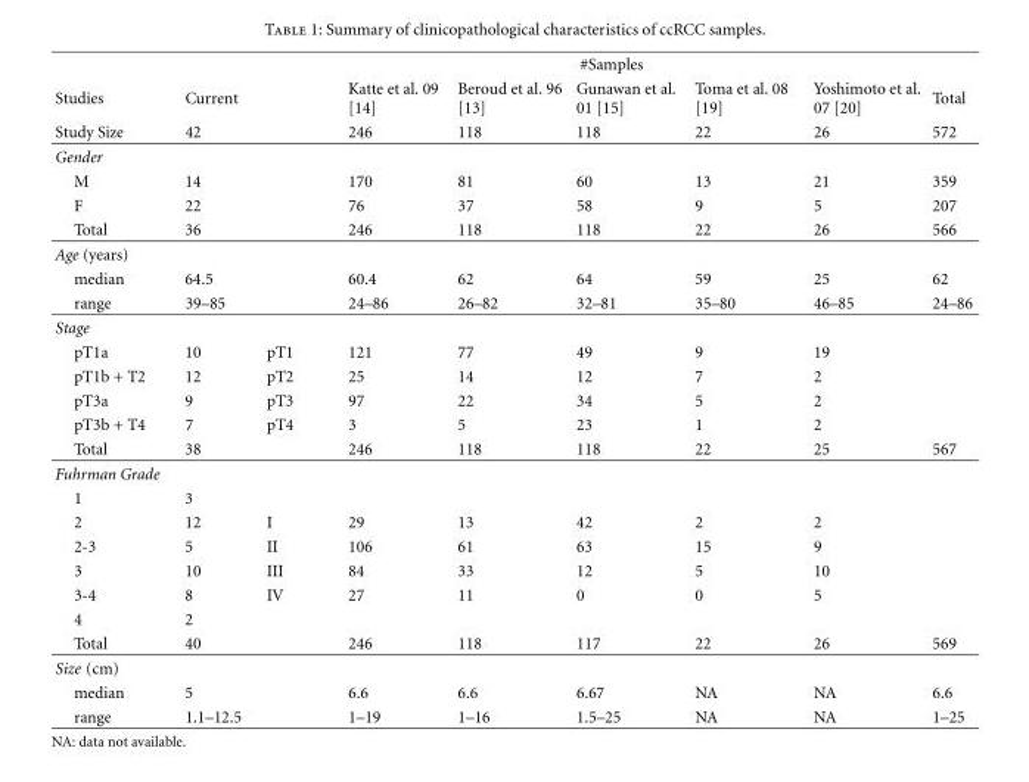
<table><thead><tr><td rowspan="3">Studies Study Size</td><td colspan="8">#Samples</td></tr><tr><td rowspan="2">Current 42</td><td rowspan="2"></td><td rowspan="2">Katte et al. 09 [14] 246</td><td rowspan="2">Beroud et al. 96 [13] 118</td><td rowspan="2">Gunawan et al. 01 [15] 118</td><td rowspan="2">Toma et al. 08 [19] 22</td><td rowspan="2">Yoshimoto et al. 07 [20] 26</td><td rowspan="2">Total 572</td></tr><tr></tr></thead><tbody><tr><td colspan="9">Gender</td></tr><tr><td>M</td><td>14</td><td></td><td>170</td><td>81</td><td>60</td><td>13</td><td>21</td><td>359</td></tr><tr><td>F</td><td>22</td><td></td><td>76</td><td>37</td><td>58</td><td>9</td><td>5</td><td>207</td></tr><tr><td>Total</td><td>36</td><td></td><td>246</td><td>118</td><td>118</td><td>22</td><td>26</td><td>566</td></tr><tr><td colspan="9">Age (years)</td></tr><tr><td>median</td><td>64.5</td><td></td><td>60.4</td><td>62</td><td>64</td><td>59</td><td>25</td><td>62</td></tr><tr><td>range</td><td>39–85</td><td></td><td>24–86</td><td>26–82</td><td>32–81</td><td>35–80</td><td>46–85</td><td>24–86</td></tr><tr><td colspan="9">Stage</td></tr><tr><td>pT1a</td><td>10</td><td>pT1</td><td>121</td><td>77</td><td>49</td><td>9</td><td>19</td><td></td></tr><tr><td>pT1b + T2</td><td>12</td><td>pT2</td><td>25</td><td>14</td><td>12</td><td>7</td><td>2</td><td></td></tr><tr><td>pT3a</td><td>9</td><td>pT3</td><td>97</td><td>22</td><td>34</td><td>5</td><td>2</td><td></td></tr><tr><td>pT3b + T4</td><td>7</td><td>pT4</td><td>3</td><td>5</td><td>23</td><td>1</td><td>2</td><td></td></tr><tr><td>Total</td><td>38</td><td></td><td>246</td><td>118</td><td>118</td><td>22</td><td>25</td><td>567</td></tr><tr><td colspan="9">Fuhrman Grade</td></tr><tr><td>1</td><td>3</td><td></td><td></td><td></td><td></td><td></td><td></td><td></td></tr><tr><td>2</td><td>12</td><td>I</td><td>29</td><td>13</td><td>42</td><td>2</td><td>2</td><td></td></tr><tr><td>2-3</td><td>5</td><td>II</td><td>106</td><td>61</td><td>63</td><td>15</td><td>9</td><td></td></tr><tr><td>3</td><td>10</td><td>III</td><td>84</td><td>33</td><td>12</td><td>5</td><td>10</td><td></td></tr><tr><td>3-4</td><td>8</td><td>IV</td><td>27</td><td>11</td><td>0</td><td>0</td><td>5</td><td></td></tr><tr><td>4</td><td>2</td><td></td><td></td><td></td><td></td><td></td><td></td><td></td></tr><tr><td>Total</td><td>40</td><td></td><td>246</td><td>118</td><td>117</td><td>22</td><td>26</td><td>569</td></tr><tr><td colspan="9">Size (cm)</td></tr><tr><td>median</td><td>5</td><td></td><td>6.6</td><td>6.6</td><td>6.67</td><td>NA</td><td>NA</td><td>6.6</td></tr><tr><td>range</td><td>1.1–12.5</td><td></td><td>1–19</td><td>1–16</td><td>1.5–25</td><td>NA</td><td>NA</td><td>1–25</td></tr></tbody></table>